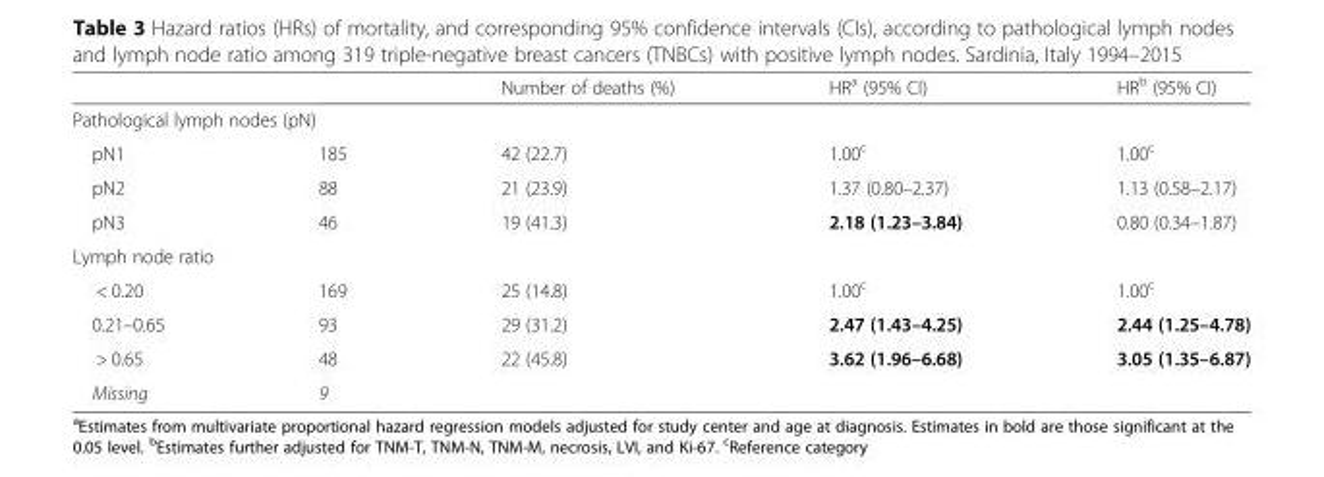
<table><thead><tr><td></td><td></td><td>Number of deaths (%)</td><td>HR<sup>a</sup> (95% CI)</td><td>HR<sup>b</sup> (95% CI)</td></tr></thead><tbody><tr><td colspan="5">Pathological lymph nodes (pN)</td></tr><tr><td>pN1</td><td>185</td><td>42 (22.7)</td><td>1.00<sup>c</sup></td><td>1.00<sup>c</sup></td></tr><tr><td>pN2</td><td>88</td><td>21 (23.9)</td><td>1.37 (0.80–2.37)</td><td>1.13 (0.58–2.17)</td></tr><tr><td>pN3</td><td>46</td><td>19 (41.3)</td><td>2.18 (1.23–3.84)</td><td>0.80 (0.34–1.87)</td></tr><tr><td colspan="5">Lymph node ratio</td></tr><tr><td>&lt; 0.20</td><td>169</td><td>25 (14.8)</td><td>1.00<sup>c</sup></td><td>1.00<sup>c</sup></td></tr><tr><td>0.21–0.65</td><td>93</td><td>29 (31.2)</td><td>2.47 (1.43–4.25)</td><td>2.44 (1.25–4.78)</td></tr><tr><td>&gt; 0.65</td><td>48</td><td>22 (45.8)</td><td>3.62 (1.96–6.68)</td><td>3.05 (1.35–6.87)</td></tr><tr><td>Missing</td><td>9</td><td></td><td></td><td></td></tr></tbody></table>